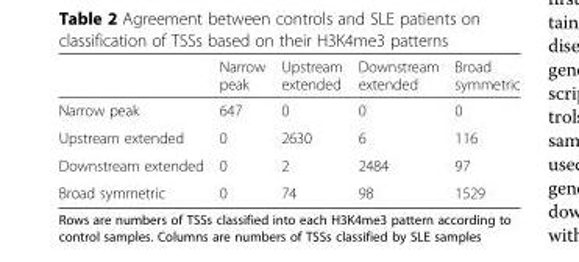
<table><thead><tr><td></td><td>Narrow peak</td><td>Upstream extended</td><td>Downstream extended</td><td>Broad symmetric</td></tr></thead><tbody><tr><td>Narrow peak</td><td>647</td><td>0</td><td>0</td><td>0</td></tr><tr><td>Upstream extended</td><td>0</td><td>2630</td><td>6</td><td>116</td></tr><tr><td>Downstream extended</td><td>0</td><td>2</td><td>2484</td><td>97</td></tr><tr><td>Broad symmetric</td><td>0</td><td>74</td><td>98</td><td>1529</td></tr></tbody></table>